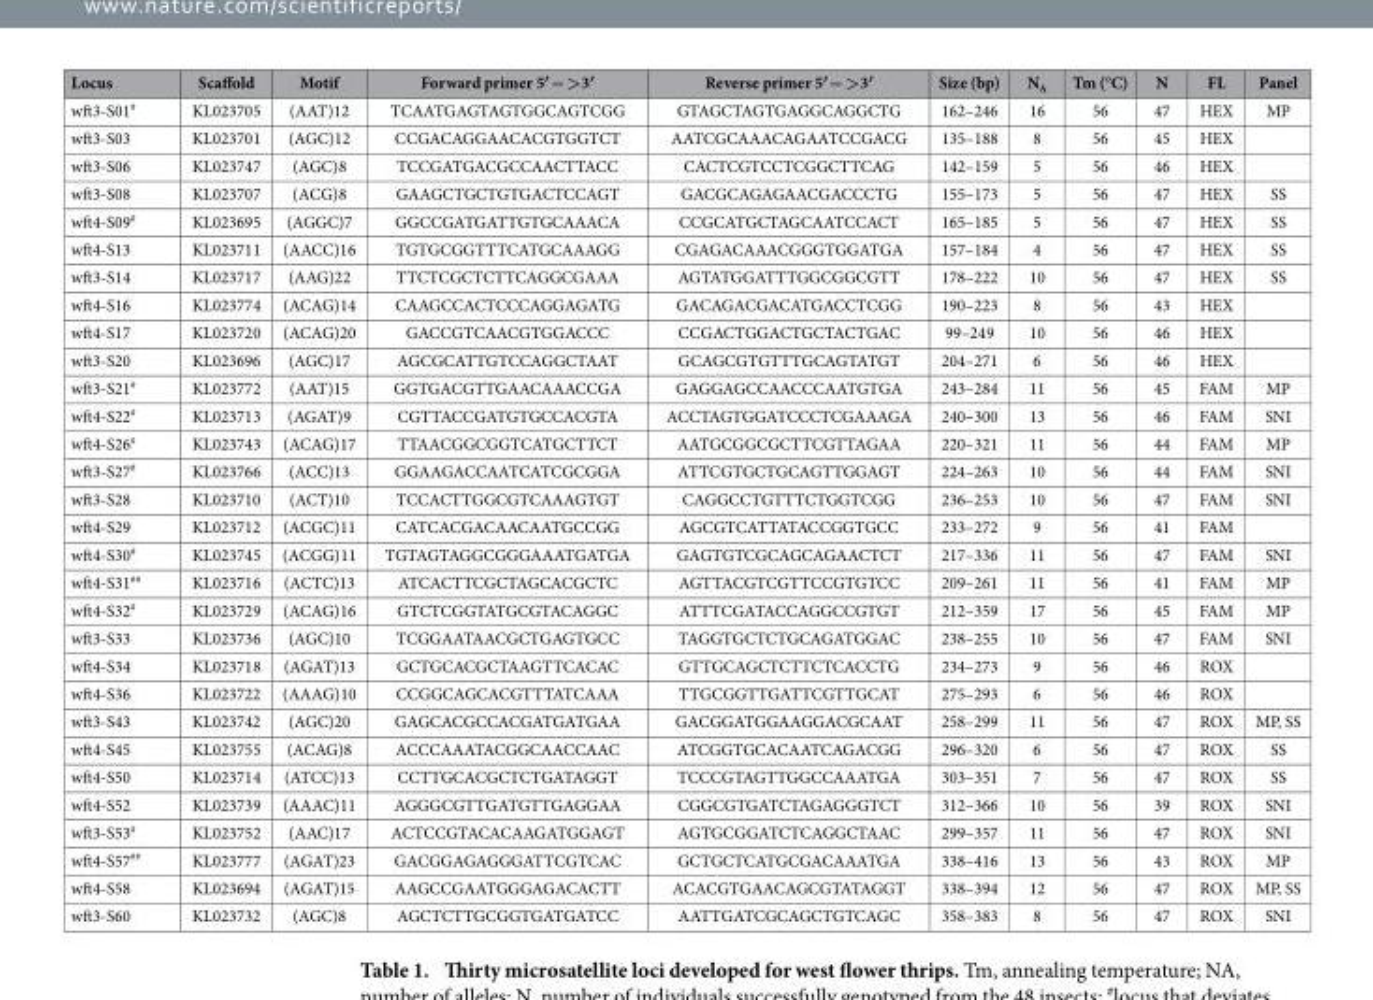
<table><thead><tr><td>Locus</td><td>Scaffold</td><td>Motif</td><td>Forward primer 5′ = &gt;3′</td><td>Reverse primer 5′ = &gt;3′</td><td>Size (bp)</td><td>N<sub>A</sub></td><td>Tm (°C)</td><td>N</td><td>FL</td><td>Panel</td></tr></thead><tbody><tr><td>wft3-S01<sup>#</sup></td><td>KL023705</td><td>(AAT)12</td><td>TCAATGAGTAGTGGCAGTCGG</td><td>GTAGCTAGTGAGGCAGGCTG</td><td>162–246</td><td>16</td><td>56</td><td>47</td><td>HEX</td><td>MP</td></tr><tr><td>wft3-S03</td><td>KL023701</td><td>(AGC)12</td><td>CCGACAGGAACACGTGGTCT</td><td>AATCGCAAACAGAATCCGACG</td><td>135–188</td><td>8</td><td>56</td><td>45</td><td>HEX</td><td></td></tr><tr><td>wft3-S06</td><td>KL023747</td><td>(AGC)8</td><td>TCCGATGACGCCAACTTACC</td><td>CACTCGTCCTCGGCTTCAG</td><td>142–159</td><td>5</td><td>56</td><td>46</td><td>HEX</td><td></td></tr><tr><td>wft3-S08</td><td>KL023707</td><td>(ACG)8</td><td>GAAGCTGCTGTGACTCCAGT</td><td>GACGCAGAGAACGACCCTG</td><td>155–173</td><td>5</td><td>56</td><td>47</td><td>HEX</td><td>SS</td></tr><tr><td>wft4-S09<sup>#</sup></td><td>KL023695</td><td>(AGGC)7</td><td>GGCCGATGATTGTGCAAACA</td><td>CCGCATGCTAGCAATCCACT</td><td>165–185</td><td>5</td><td>56</td><td>47</td><td>HEX</td><td>SS</td></tr><tr><td>wft4-S13</td><td>KL023711</td><td>(AACC)16</td><td>TGTGCGGTTTCATGCAAAGG</td><td>CGAGACAAACGGGTGGATGA</td><td>157–184</td><td>4</td><td>56</td><td>47</td><td>HEX</td><td>SS</td></tr><tr><td>wft3-S14</td><td>KL023717</td><td>(AAG)22</td><td>TTCTCGCTCTTCAGGCGAAA</td><td>AGTATGGATTTGGCGGCGTT</td><td>178–222</td><td>10</td><td>56</td><td>47</td><td>HEX</td><td>SS</td></tr><tr><td>wft4-S16</td><td>KL023774</td><td>(ACAG)14</td><td>CAAGCCACTCCCAGGAGATG</td><td>GACAGACGACATGACCTCGG</td><td>190–223</td><td>8</td><td>56</td><td>43</td><td>HEX</td><td></td></tr><tr><td>wft4-S17</td><td>KL023720</td><td>(ACAG)20</td><td>GACCGTCAACGTGGACCC</td><td>CCGACTGGACTGCTACTGAC</td><td>99–249</td><td>10</td><td>56</td><td>46</td><td>HEX</td><td></td></tr><tr><td>wft3-S20</td><td>KL023696</td><td>(AGC)17</td><td>AGCGCATTGTCCAGGCTAAT</td><td>GCAGCGTGTTTGCAGTATGT</td><td>204–271</td><td>6</td><td>56</td><td>46</td><td>HEX</td><td></td></tr><tr><td>wft3-S21<sup>#</sup></td><td>KL023772</td><td>(AAT)15</td><td>GGTGACGTTGAACAAACCGA</td><td>GAGGAGCCAACCCAATGTGA</td><td>243–284</td><td>11</td><td>56</td><td>45</td><td>FAM</td><td>MP</td></tr><tr><td>wft4-S22<sup>#</sup></td><td>KL023713</td><td>(AGAT)9</td><td>CGTTACCGATGTGCCACGTA</td><td>ACCTAGTGGATCCCTCGAAAGA</td><td>240–300</td><td>13</td><td>56</td><td>46</td><td>FAM</td><td>SNI</td></tr><tr><td>wft4-S26<sup>#</sup></td><td>KL023743</td><td>(ACAG)17</td><td>TTAACGGCGGTCATGCTTCT</td><td>AATGCGGCGCTTCGTTAGAA</td><td>220–321</td><td>11</td><td>56</td><td>44</td><td>FAM</td><td>MP</td></tr><tr><td>wft3-S27<sup>#</sup></td><td>KL023766</td><td>(ACC)13</td><td>GGAAGACCAATCATCGCGGA</td><td>ATTCGTGCTGCAGTTGGAGT</td><td>224–263</td><td>10</td><td>56</td><td>44</td><td>FAM</td><td>SNI</td></tr><tr><td>wft3-S28</td><td>KL023710</td><td>(ACT)10</td><td>TCCACTTGGCGTCAAAGTGT</td><td>CAGGCCTGTTTCTGGTCGG</td><td>236–253</td><td>10</td><td>56</td><td>47</td><td>FAM</td><td>SNI</td></tr><tr><td>wft4-S29</td><td>KL023712</td><td>(ACGC)11</td><td>CATCACGACAACAATGCCGG</td><td>AGCGTCATTATACCGGTGCC</td><td>233–272</td><td>9</td><td>56</td><td>41</td><td>FAM</td><td></td></tr><tr><td>wft4-S30<sup>#</sup></td><td>KL023745</td><td>(ACGG)11</td><td>TGTAGTAGGCGGGAAATGATGA</td><td>GAGTGTCGCAGCAGAACTCT</td><td>217–336</td><td>11</td><td>56</td><td>47</td><td>FAM</td><td>SNI</td></tr><tr><td>wft4-S31<sup>##</sup></td><td>KL023716</td><td>(ACTC)13</td><td>ATCACTTCGCTAGCACGCTC</td><td>AGTTACGTCGTTCCGTGTCC</td><td>209–261</td><td>11</td><td>56</td><td>41</td><td>FAM</td><td>MP</td></tr><tr><td>wft4-S32<sup>#</sup></td><td>KL023729</td><td>(ACAG)16</td><td>GTCTCGGTATGCGTACAGGC</td><td>ATTTCGATACCAGGCCGTGT</td><td>212–359</td><td>17</td><td>56</td><td>45</td><td>FAM</td><td>MP</td></tr><tr><td>wft3-S33</td><td>KL023736</td><td>(AGC)10</td><td>TCGGAATAACGCTGAGTGCC</td><td>TAGGTGCTCTGCAGATGGAC</td><td>238–255</td><td>10</td><td>56</td><td>47</td><td>FAM</td><td>SNI</td></tr><tr><td>wft4-S34</td><td>KL023718</td><td>(AGAT)13</td><td>GCTGCACGCTAAGTTCACAC</td><td>GTTGCAGCTCTTCTCACCTG</td><td>234–273</td><td>9</td><td>56</td><td>46</td><td>ROX</td><td></td></tr><tr><td>wft4-S36</td><td>KL023722</td><td>(AAAG)10</td><td>CCGGCAGCACGTTTATCAAA</td><td>TTGCGGTTGATTCGTTGCAT</td><td>275–293</td><td>6</td><td>56</td><td>46</td><td>ROX</td><td></td></tr><tr><td>wft3-S43</td><td>KL023742</td><td>(AGC)20</td><td>GAGCACGCCACGATGATGAA</td><td>GACGGATGGAAGGACGCAAT</td><td>258–299</td><td>11</td><td>56</td><td>47</td><td>ROX</td><td>MP, SS</td></tr><tr><td>wft4-S45</td><td>KL023755</td><td>(ACAG)8</td><td>ACCCAAATACGGCAACCAAC</td><td>ATCGGTGCACAATCAGACGG</td><td>296–320</td><td>6</td><td>56</td><td>47</td><td>ROX</td><td>SS</td></tr><tr><td>wft4-S50</td><td>KL023714</td><td>(ATCC)13</td><td>CCTTGCACGCTCTGATAGGT</td><td>TCCCGTAGTTGGCCAAATGA</td><td>303–351</td><td>7</td><td>56</td><td>47</td><td>ROX</td><td>SS</td></tr><tr><td>wft4-S52</td><td>KL023739</td><td>(AAAC)11</td><td>AGGGCGTTGATGTTGAGGAA</td><td>CGGCGTGATCTAGAGGGTCT</td><td>312–366</td><td>10</td><td>56</td><td>39</td><td>ROX</td><td>SNI</td></tr><tr><td>wft3-S53<sup>#</sup></td><td>KL023752</td><td>(AAC)17</td><td>ACTCCGTACACAAGATGGAGT</td><td>AGTGCGGATCTCAGGCTAAC</td><td>299–357</td><td>11</td><td>56</td><td>47</td><td>ROX</td><td>SNI</td></tr><tr><td>wft4-S57<sup>##</sup></td><td>KL023777</td><td>(AGAT)23</td><td>GACGGAGAGGGATTCGTCAC</td><td>GCTGCTCATGCGACAAATGA</td><td>338–416</td><td>13</td><td>56</td><td>43</td><td>ROX</td><td>MP</td></tr><tr><td>wft4-S58</td><td>KL023694</td><td>(AGAT)15</td><td>AAGCCGAATGGGAGACACTT</td><td>ACACGTGAACAGCGTATAGGT</td><td>338–394</td><td>12</td><td>56</td><td>47</td><td>ROX</td><td>MP, SS</td></tr><tr><td>wft3-S60</td><td>KL023732</td><td>(AGC)8</td><td>AGCTCTTGCGGTGATGATCC</td><td>AATTGATCGCAGCTGTCAGC</td><td>358–383</td><td>8</td><td>56</td><td>47</td><td>ROX</td><td>SNI</td></tr></tbody></table>